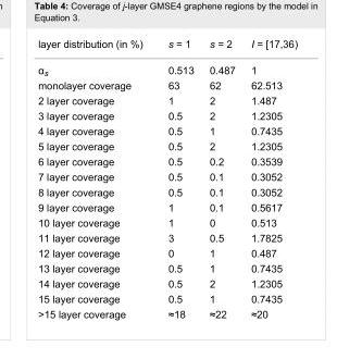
<table><tbody><tr><td>layer distribution (in %)</td><td>s = 1</td><td>s = 2</td><td>I = [17,36)</td></tr><tr><td>α<sub>s</sub></td><td>0.513</td><td>0.487</td><td>1</td></tr><tr><td>monolayer coverage</td><td>63</td><td>62</td><td>62.513</td></tr><tr><td>2 layer coverage</td><td>1</td><td>2</td><td>1.487</td></tr><tr><td>3 layer coverage</td><td>0.5</td><td>2</td><td>1.2305</td></tr><tr><td>4 layer coverage</td><td>0.5</td><td>1</td><td>0.7435</td></tr><tr><td>5 layer coverage</td><td>0.5</td><td>2</td><td>1.2305</td></tr><tr><td>6 layer coverage</td><td>0.5</td><td>0.2</td><td>0.3539</td></tr><tr><td>7 layer coverage</td><td>0.5</td><td>0.1</td><td>0.3052</td></tr><tr><td>8 layer coverage</td><td>0.5</td><td>0.1</td><td>0.3052</td></tr><tr><td>9 layer coverage</td><td>1</td><td>0.1</td><td>0.5617</td></tr><tr><td>10 layer coverage</td><td>1</td><td>0</td><td>0.513</td></tr><tr><td>11 layer coverage</td><td>3</td><td>0.5</td><td>1.7825</td></tr><tr><td>12 layer coverage</td><td>0</td><td>1</td><td>0.487</td></tr><tr><td>13 layer coverage</td><td>0.5</td><td>1</td><td>0.7435</td></tr><tr><td>14 layer coverage</td><td>0.5</td><td>2</td><td>1.2305</td></tr><tr><td>15 layer coverage</td><td>0.5</td><td>1</td><td>0.7435</td></tr><tr><td>&gt;15 layer coverage</td><td>≈18</td><td>≈22</td><td>≈20</td></tr></tbody></table>